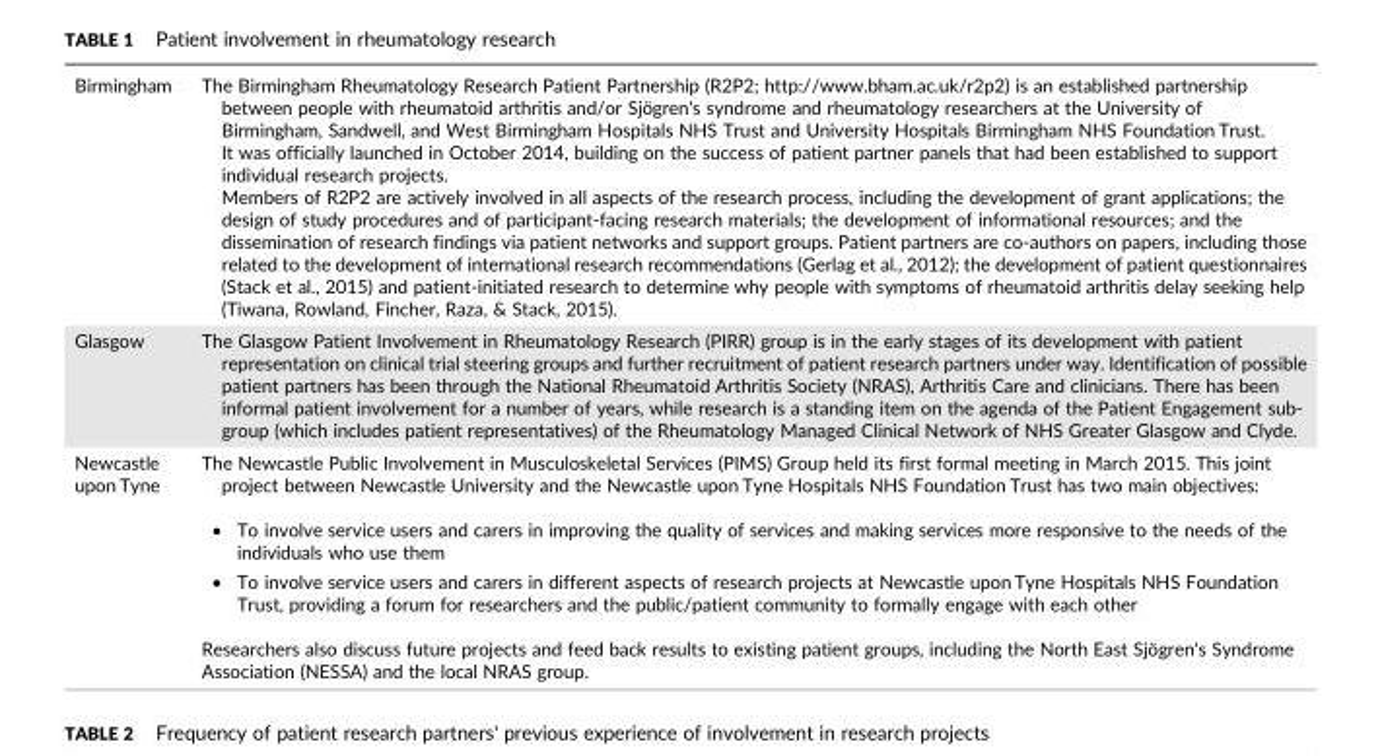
<table><tbody><tr><td>Birmingham</td><td>The Birmingham Rheumatology Research Patient Partnership (R2P2; http://www.bham.ac.uk/r2p2) is an established partnership between people with rheumatoid arthritis and/or Sjögren&#x27;s syndrome and rheumatology researchers at the University of Birmingham, Sandwell, and West Birmingham Hospitals NHS Trust and University Hospitals Birmingham NHS Foundation Trust. It was officially launched in October 2014, building on the success of patient partner panels that had been established to support individual research projects. Members of R2P2 are actively involved in all aspects of the research process, including the development of grant applications; the design of study procedures and of participant‐facing research materials; the development of informational resources; and the dissemination of research findings via patient networks and support groups. Patient partners are co‐authors on papers, including those related to the development of international research recommendations (Gerlag et al., 2012); the development of patient questionnaires (Stack et al., 2015) and patient‐initiated research to determine why people with symptoms of rheumatoid arthritis delay seeking help (Tiwana, Rowland, Fincher, Raza, &amp; Stack, 2015).</td></tr><tr><td>Glasgow</td><td>The Glasgow Patient Involvement in Rheumatology Research (PIRR) group is in the early stages of its development with patient representation on clinical trial steering groups and further recruitment of patient research partners under way. Identification of possible patient partners has been through the National Rheumatoid Arthritis Society (NRAS), Arthritis Care and clinicians. There has been informal patient involvement for a number of years, while research is a standing item on the agenda of the Patient Engagement sub‐ group (which includes patient representatives) of the Rheumatology Managed Clinical Network of NHS Greater Glasgow and Clyde.</td></tr><tr><td>Newcastle upon Tyne</td><td>The Newcastle Public Involvement in Musculoskeletal Services (PIMS) Group held its first formal meeting in March 2015. This joint project between Newcastle University and the Newcastle upon Tyne Hospitals NHS Foundation Trust has two main objectives: • To involve service users and carers in improving the quality of services and making services more responsive to the needs of the individuals who use them • To involve service users and carers in different aspects of research projects at Newcastle upon Tyne Hospitals NHS Foundation Trust, providing a forum for researchers and the public/patient community to formally engage with each other Researchers also discuss future projects and feed back results to existing patient groups, including the North East Sjögren&#x27;s Syndrome Association (NESSA) and the local NRAS group.</td></tr></tbody></table>